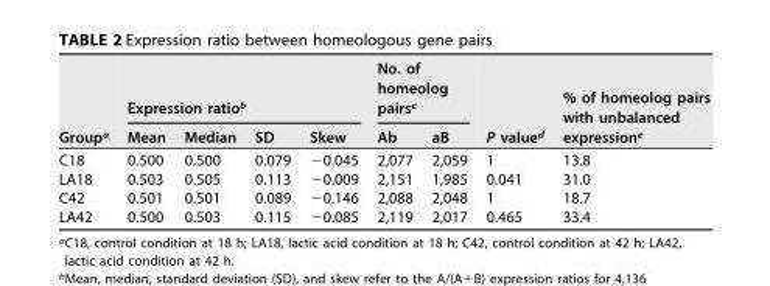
<table><thead><tr><td rowspan="2">Group<sup>a</sup></td><td colspan="4">Expression ratio<sup>b</sup></td><td colspan="2">No. of homeolog pairs<sup>c</sup></td><td rowspan="2">P value<sup>d</sup></td><td rowspan="2">% of homeolog pairs with unbalanced expression<sup>e</sup></td></tr><tr><td>Mean</td><td>Median</td><td>SD</td><td>Skew</td><td>Ab</td><td>aB</td></tr></thead><tbody><tr><td>C18</td><td>0.500</td><td>0.500</td><td>0.079</td><td>−0.045</td><td>2,077</td><td>2,059</td><td>1</td><td>13.8</td></tr><tr><td>LA18</td><td>0.503</td><td>0.505</td><td>0.113</td><td>−0.009</td><td>2,151</td><td>1,985</td><td>0.041</td><td>31.0</td></tr><tr><td>C42</td><td>0.501</td><td>0.501</td><td>0.089</td><td>−0.146</td><td>2,088</td><td>2,048</td><td>1</td><td>18.7</td></tr><tr><td>LA42</td><td>0.500</td><td>0.503</td><td>0.115</td><td>−0.085</td><td>2,119</td><td>2,017</td><td>0.465</td><td>33.4</td></tr></tbody></table>